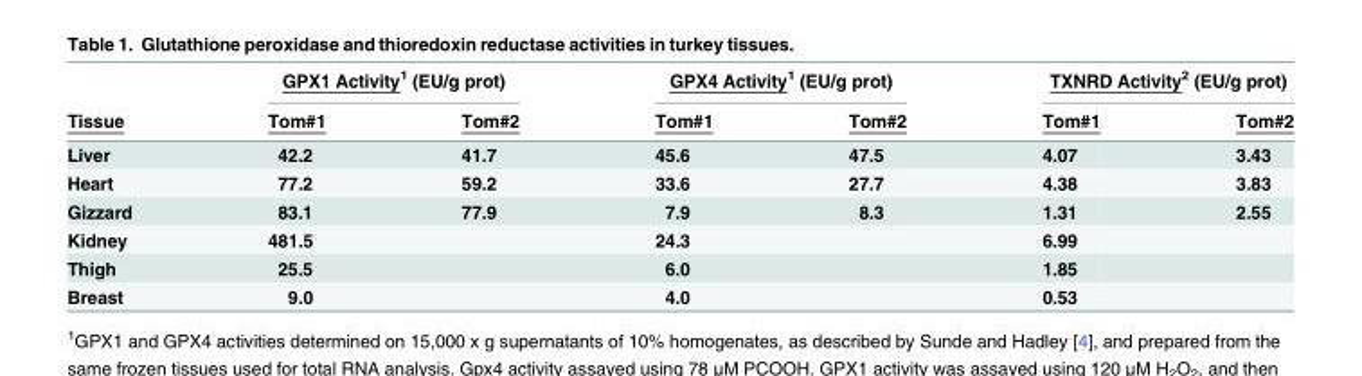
<table><thead><tr><td rowspan="2">Tissue</td><td colspan="2">GPX1 Activity<sup>1</sup> (EU/g prot)</td><td colspan="2">GPX4 Activity<sup>1</sup> (EU/g prot)</td><td colspan="2">TXNRD Activity<sup>2</sup> (EU/g prot)</td></tr><tr><td>Tom#1</td><td>Tom#2</td><td>Tom#1</td><td>Tom#2</td><td>Tom#1</td><td>Tom#2</td></tr></thead><tbody><tr><td>Liver</td><td>42.2</td><td>41.7</td><td>45.6</td><td>47.5</td><td>4.07</td><td>3.43</td></tr><tr><td>Heart</td><td>77.2</td><td>59.2</td><td>33.6</td><td>27.7</td><td>4.38</td><td>3.83</td></tr><tr><td>Gizzard</td><td>83.1</td><td>77.9</td><td>7.9</td><td>8.3</td><td>1.31</td><td>2.55</td></tr><tr><td>Kidney</td><td>481.5</td><td></td><td>24.3</td><td></td><td>6.99</td><td></td></tr><tr><td>Thigh</td><td>25.5</td><td></td><td>6.0</td><td></td><td>1.85</td><td></td></tr><tr><td>Breast</td><td>9.0</td><td></td><td>4.0</td><td></td><td>0.53</td><td></td></tr></tbody></table>